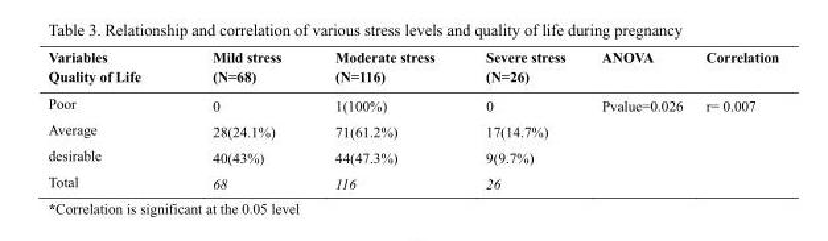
<table><thead><tr><td>Variables Quality of Life</td><td>Mild stress (N=68)</td><td>Moderate stress (N=116)</td><td>Severe stress (N=26)</td><td>ANOVA</td><td>Correlation</td></tr></thead><tbody><tr><td>Poor</td><td>0</td><td>1(100%)</td><td>0</td><td>Pvalue=0.026</td><td>r= 0.007</td></tr><tr><td>Average</td><td>28(24.1%)</td><td>71(61.2%)</td><td>17(14.7%)</td><td></td><td></td></tr><tr><td>desirable</td><td>40(43%)</td><td>44(47.3%)</td><td>9(9.7%)</td><td></td><td></td></tr><tr><td>Total</td><td>68</td><td>116</td><td>26</td><td></td><td></td></tr></tbody></table>